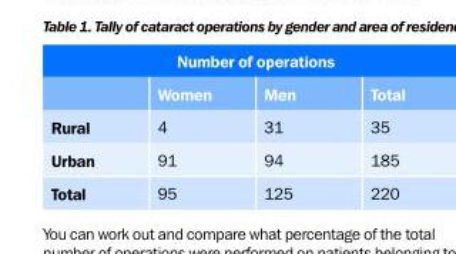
<table><thead><tr><td colspan="4">Number of operations</td></tr><tr><td></td><td>Women</td><td>Men</td><td>Total</td></tr></thead><tbody><tr><td>Rural</td><td>4</td><td>31</td><td>35</td></tr><tr><td>Urban</td><td>91</td><td>94</td><td>185</td></tr><tr><td>Total</td><td>95</td><td>125</td><td>220</td></tr></tbody></table>